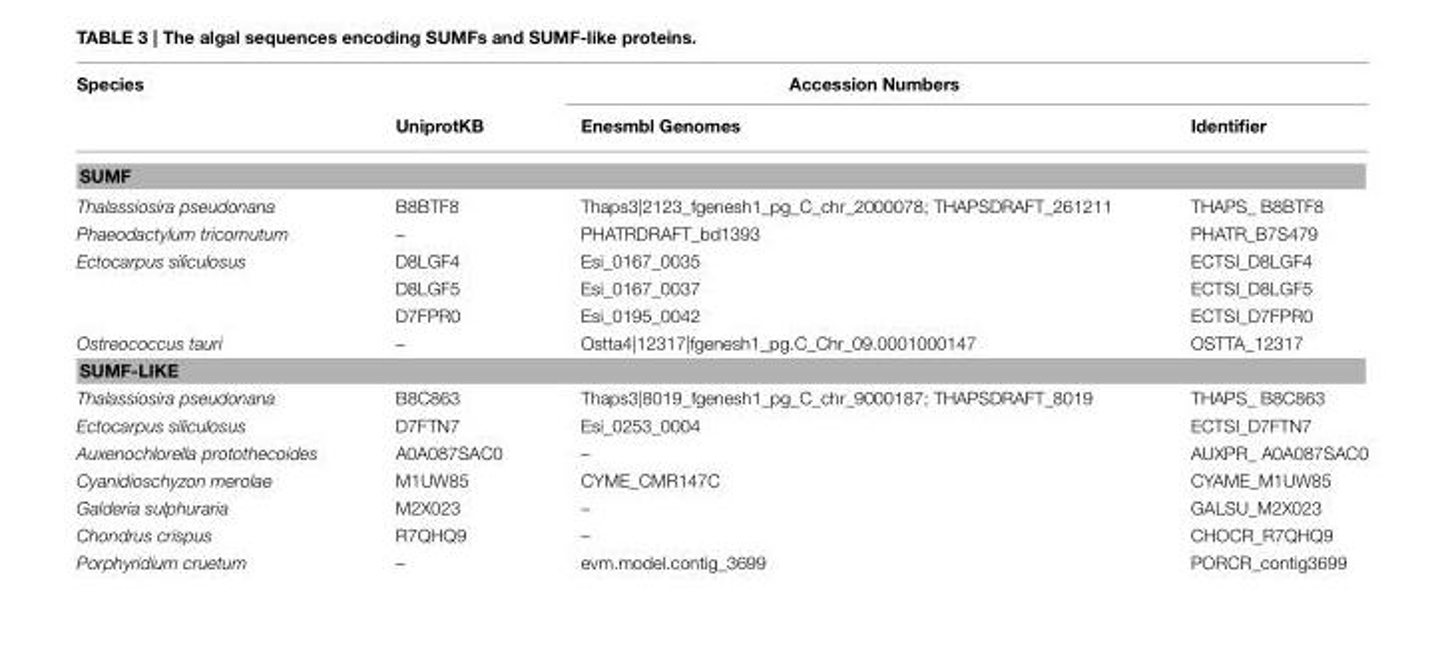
<table><thead><tr><td rowspan="2">Species</td><td colspan="3">Accession Numbers</td></tr><tr><td>UniprotKB</td><td>Enesmbl Genomes</td><td>Identifier</td></tr></thead><tbody><tr><td colspan="4">SUMF</td></tr><tr><td>Thalassiosira pseudonana</td><td>B8BTF8</td><td>Thaps3|2123_fgenesh1_pg_C_chr_2000078; THAPSDRAFT_261211</td><td>THAPS_ B8BTF8</td></tr><tr><td>Phaeodactylum tricornutum</td><td>–</td><td>PHATRDRAFT_bd1393</td><td>PHATR_B7S479</td></tr><tr><td rowspan="3">Ectocarpus siliculosus</td><td>D8LGF4</td><td>Esi_0167_0035</td><td>ECTSI_D8LGF4</td></tr><tr><td>D8LGF5</td><td>Esi_0167_0037</td><td>ECTSI_D8LGF5</td></tr><tr><td>D7FPR0</td><td>Esi_0195_0042</td><td>ECTSI_D7FPR0</td></tr><tr><td>Ostreococcus tauri</td><td>–</td><td>Ostta4|12317|fgenesh1_pg.C_Chr_09.0001000147</td><td>OSTTA_12317</td></tr><tr><td colspan="4">SUMF-LIKE</td></tr><tr><td>Thalassiosira pseudonana</td><td>B8C863</td><td>Thaps3|8019_fgenesh1_pg_C_chr_9000187; THAPSDRAFT_8019</td><td>THAPS_ B8C863</td></tr><tr><td>Ectocarpus siliculosus</td><td>D7FTN7</td><td>Esi_0253_0004</td><td>ECTSI_D7FTN7</td></tr><tr><td>Auxenochlorella protothecoides</td><td>A0A087SAC0</td><td>–</td><td>AUXPR_ A0A087SAC0</td></tr><tr><td>Cyanidioschyzon merolae</td><td>M1UW85</td><td>CYME_CMR147C</td><td>CYAME_M1UW85</td></tr><tr><td>Galderia sulphuraria</td><td>M2X023</td><td>–</td><td>GALSU_M2X023</td></tr><tr><td>Chondrus crispus</td><td>R7QHQ9</td><td>–</td><td>CHOCR_R7QHQ9</td></tr><tr><td>Porphyridium cruetum</td><td>–</td><td>evm.model.contig_3699</td><td>PORCR_contig3699</td></tr></tbody></table>